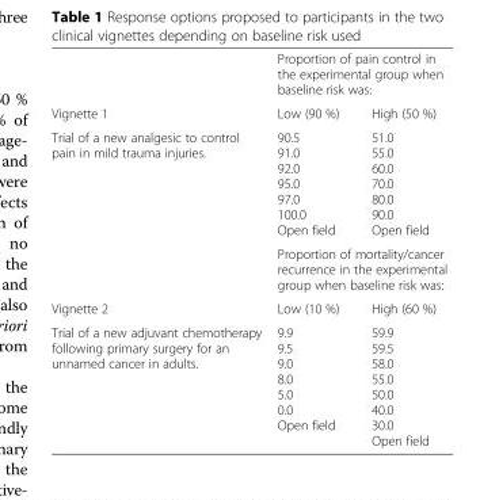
<table><thead><tr><td rowspan="2">Vignette 1</td><td colspan="2">Proportion of pain control in the experimental group when baseline risk was:</td></tr><tr><td>Low (90 %)</td><td>High (50 %)</td></tr></thead><tbody><tr><td rowspan="2">Trial of a new analgesic to control pain in mild trauma injuries.</td><td>90.5 91.0 92.0 95.0 97.0 100.0 Open field</td><td>51.0 55.0 60.0 70.0 80.0 90.0 Open field</td></tr><tr><td colspan="2">Proportion of mortality/cancer recurrence in the experimental group when baseline risk was:</td></tr><tr><td>Vignette 2</td><td>Low (10 %)</td><td>High (60 %)</td></tr><tr><td>Trial of a new adjuvant chemotherapy following primary surgery for an unnamed cancer in adults.</td><td>9.9 9.5 9.0 8.0 5.0 0.0 Open field</td><td>59.9 59.5 58.0 55.0 50.0 40.0 30.0 Open field</td></tr></tbody></table>